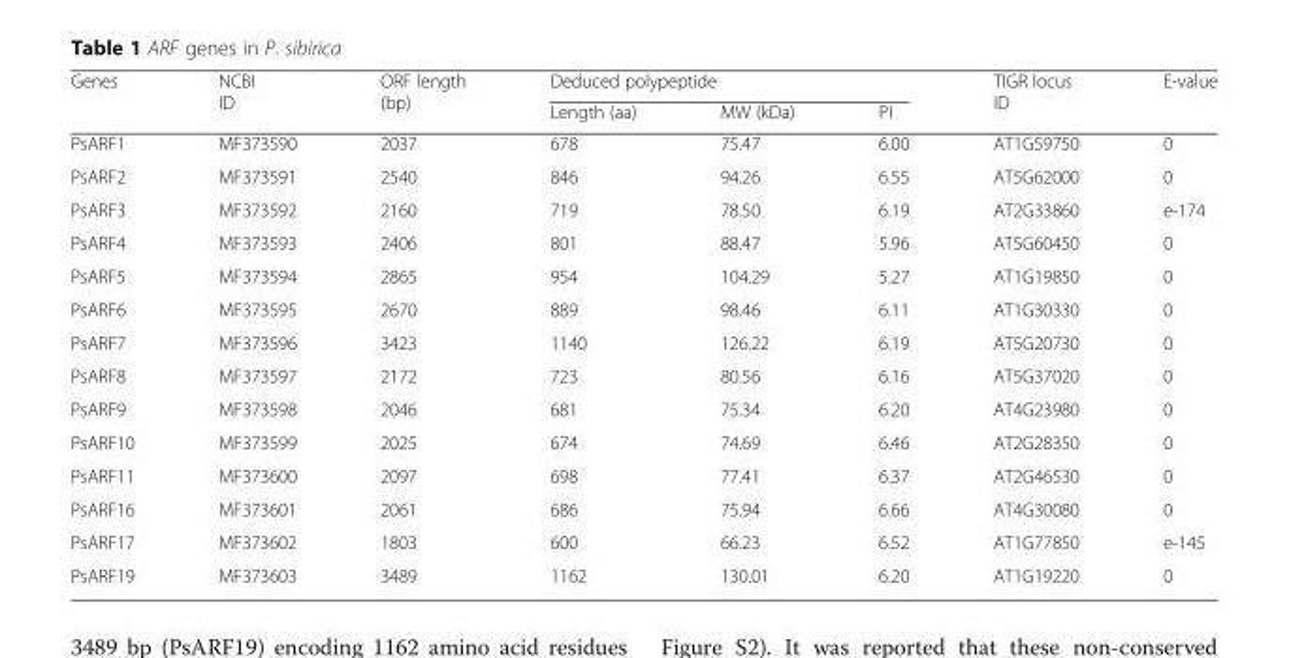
<table><thead><tr><td rowspan="2">Genes</td><td rowspan="2">NCBI ID</td><td rowspan="2">ORF length (bp)</td><td colspan="3">Deduced polypeptide</td><td rowspan="2">TIGR locus ID</td><td rowspan="2">E-value</td></tr><tr><td>Length (aa)</td><td>MW (kDa)</td><td>PI</td></tr></thead><tbody><tr><td>PsARF1</td><td>MF373590</td><td>2037</td><td>678</td><td>75.47</td><td>6.00</td><td>AT1G59750</td><td>0</td></tr><tr><td>PsARF2</td><td>MF373591</td><td>2540</td><td>846</td><td>94.26</td><td>6.55</td><td>AT5G62000</td><td>0</td></tr><tr><td>PsARF3</td><td>MF373592</td><td>2160</td><td>719</td><td>78.50</td><td>6.19</td><td>AT2G33860</td><td>e-174</td></tr><tr><td>PsARF4</td><td>MF373593</td><td>2406</td><td>801</td><td>88.47</td><td>5.96</td><td>AT5G60450</td><td>0</td></tr><tr><td>PsARF5</td><td>MF373594</td><td>2865</td><td>954</td><td>104.29</td><td>5.27</td><td>AT1G19850</td><td>0</td></tr><tr><td>PsARF6</td><td>MF373595</td><td>2670</td><td>889</td><td>98.46</td><td>6.11</td><td>AT1G30330</td><td>0</td></tr><tr><td>PsARF7</td><td>MF373596</td><td>3423</td><td>1140</td><td>126.22</td><td>6.19</td><td>AT5G20730</td><td>0</td></tr><tr><td>PsARF8</td><td>MF373597</td><td>2172</td><td>723</td><td>80.56</td><td>6.16</td><td>AT5G37020</td><td>0</td></tr><tr><td>PsARF9</td><td>MF373598</td><td>2046</td><td>681</td><td>75.34</td><td>6.20</td><td>AT4G23980</td><td>0</td></tr><tr><td>PsARF10</td><td>MF373599</td><td>2025</td><td>674</td><td>74.69</td><td>6.46</td><td>AT2G28350</td><td>0</td></tr><tr><td>PsARF11</td><td>MF373600</td><td>2097</td><td>698</td><td>77.41</td><td>6.37</td><td>AT2G46530</td><td>0</td></tr><tr><td>PsARF16</td><td>MF373601</td><td>2061</td><td>686</td><td>75.94</td><td>6.66</td><td>AT4G30080</td><td>0</td></tr><tr><td>PsARF17</td><td>MF373602</td><td>1803</td><td>600</td><td>66.23</td><td>6.52</td><td>AT1G77850</td><td>e-145</td></tr><tr><td>PsARF19</td><td>MF373603</td><td>3489</td><td>1162</td><td>130.01</td><td>6.20</td><td>AT1G19220</td><td>0</td></tr></tbody></table>